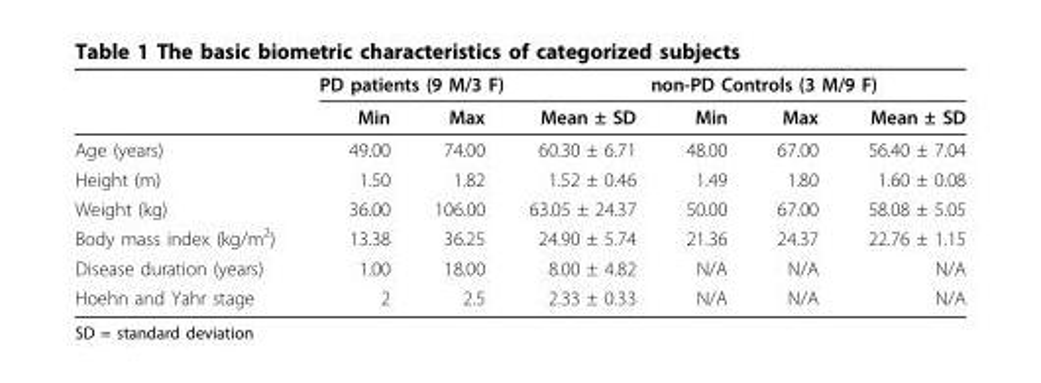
<table><thead><tr><td rowspan="2"></td><td colspan="3">PD patients (9 M/3 F)</td><td colspan="3">non-PD Controls (3 M/9 F)</td></tr><tr><td>Min</td><td>Max</td><td>Mean ± SD</td><td>Min</td><td>Max</td><td>Mean ± SD</td></tr></thead><tbody><tr><td>Age (years)</td><td>49.00</td><td>74.00</td><td>60.30 ± 6.71</td><td>48.00</td><td>67.00</td><td>56.40 ± 7.04</td></tr><tr><td>Height (m)</td><td>1.50</td><td>1.82</td><td>1.52 ± 0.46</td><td>1.49</td><td>1.80</td><td>1.60 ± 0.08</td></tr><tr><td>Weight (kg)</td><td>36.00</td><td>106.00</td><td>63.05 ± 24.37</td><td>50.00</td><td>67.00</td><td>58.08 ± 5.05</td></tr><tr><td>Body mass index (kg/m<sup>2</sup>)</td><td>13.38</td><td>36.25</td><td>24.90 ± 5.74</td><td>21.36</td><td>24.37</td><td>22.76 ± 1.15</td></tr><tr><td>Disease duration (years)</td><td>1.00</td><td>18.00</td><td>8.00 ± 4.82</td><td>N/A</td><td>N/A</td><td>N/A</td></tr><tr><td>Hoehn and Yahr stage</td><td>2</td><td>2.5</td><td>2.33 ± 0.33</td><td>N/A</td><td>N/A</td><td>N/A</td></tr></tbody></table>